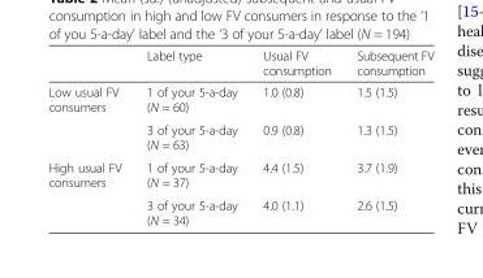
<table><thead><tr><td></td><td>Label type</td><td>Usual FV consumption</td><td>Subsequent FV consumption</td></tr></thead><tbody><tr><td rowspan="2">Low usual FV consumers</td><td>1 of your 5-a-day (N = 60)</td><td>1.0 (0.8)</td><td>1.5 (1.5)</td></tr><tr><td>3 of your 5-a-day (N = 63)</td><td>0.9 (0.8)</td><td>1.3 (1.5)</td></tr><tr><td rowspan="2">High usual FV consumers</td><td>1 of your 5-a-day (N = 37)</td><td>4.4 (1.5)</td><td>3.7 (1.9)</td></tr><tr><td>3 of your 5-a-day (N = 34)</td><td>4.0 (1.1)</td><td>2.6 (1.5)</td></tr></tbody></table>